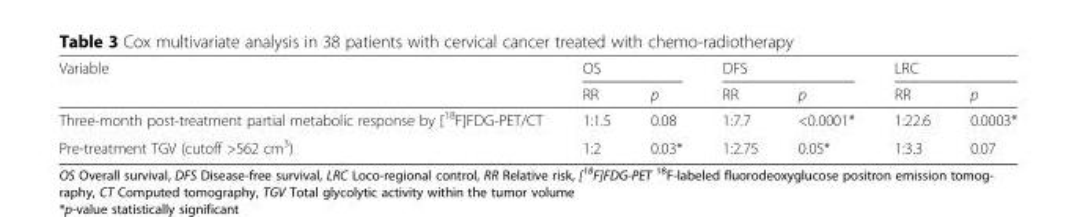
<table><thead><tr><td rowspan="2">Variable</td><td colspan="2">OS</td><td colspan="2">DFS</td><td colspan="2">LRC</td></tr><tr><td>RR</td><td>p</td><td>RR</td><td>p</td><td>RR</td><td>p</td></tr></thead><tbody><tr><td>Three-month post-treatment partial metabolic response by [<sup>18</sup>F]FDG-PET/CT</td><td>1:1.5</td><td>0.08</td><td>1:7.7</td><td>&lt;0.0001*</td><td>1:22.6</td><td>0.0003*</td></tr><tr><td>Pre-treatment TGV (cutoff &gt;562 cm<sup>3</sup>)</td><td>1:2</td><td>0.03*</td><td>1:2.75</td><td>0.05*</td><td>1:3.3</td><td>0.07</td></tr></tbody></table>